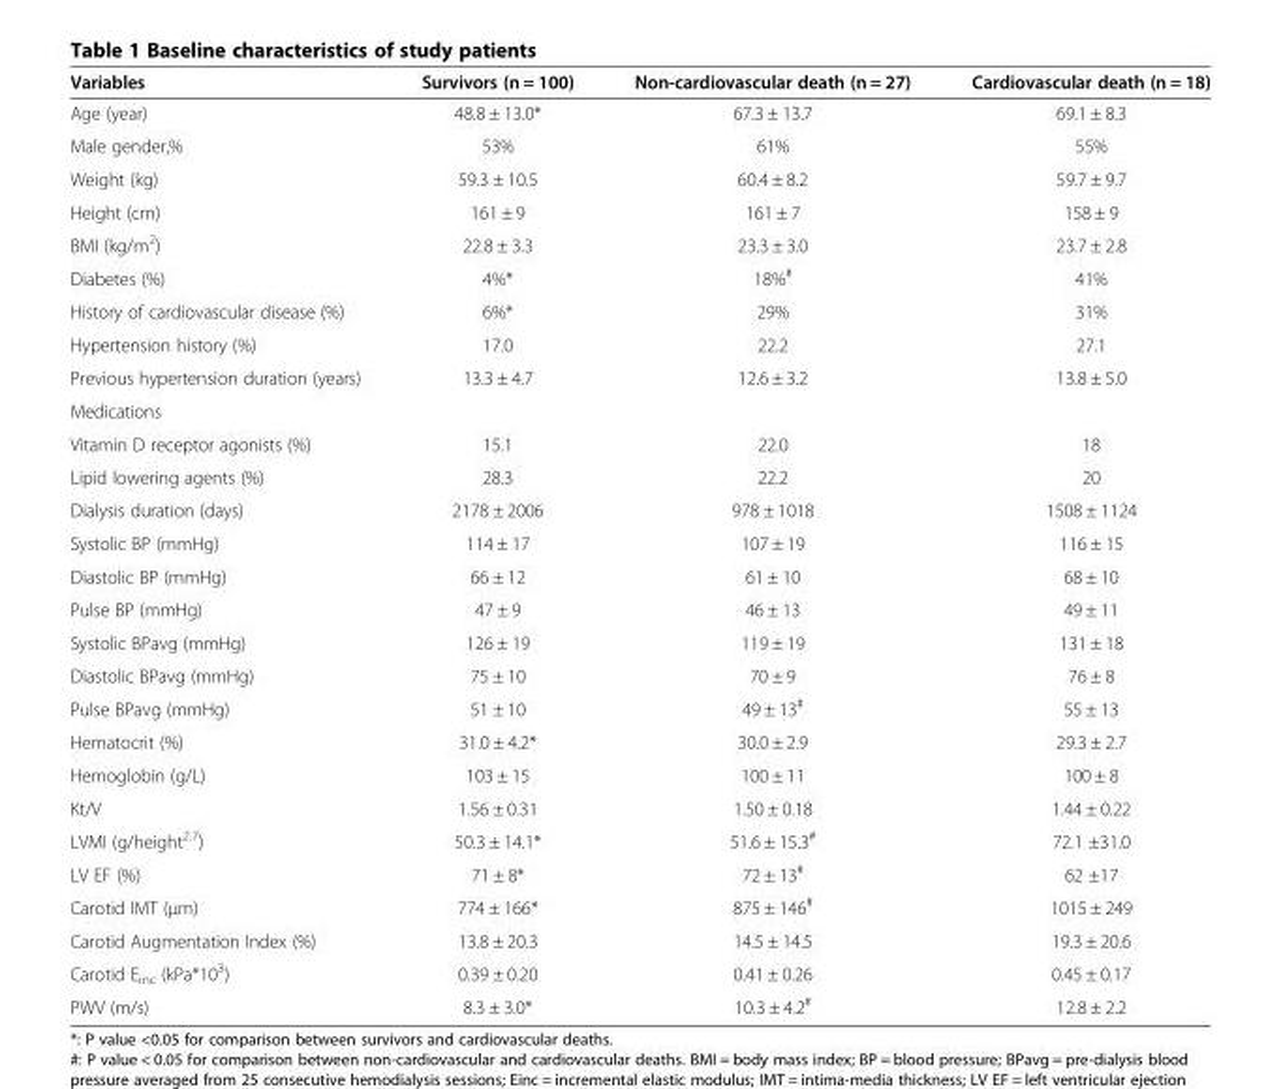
<table><thead><tr><td>Variables</td><td>Survivors (n = 100)</td><td>Non-cardiovascular death (n = 27)</td><td>Cardiovascular death (n = 18)</td></tr></thead><tbody><tr><td>Age (year)</td><td>48.8 ± 13.0*</td><td>67.3 ± 13.7</td><td>69.1 ± 8.3</td></tr><tr><td>Male gender,%</td><td>53%</td><td>61%</td><td>55%</td></tr><tr><td>Weight (kg)</td><td>59.3 ± 10.5</td><td>60.4 ± 8.2</td><td>59.7 ± 9.7</td></tr><tr><td>Height (cm)</td><td>161 ± 9</td><td>161 ± 7</td><td>158 ± 9</td></tr><tr><td>BMI (kg/m<sup>2</sup>)</td><td>22.8 ± 3.3</td><td>23.3 ± 3.0</td><td>23.7 ± 2.8</td></tr><tr><td>Diabetes (%)</td><td>4%*</td><td>18%<sup>#</sup></td><td>41%</td></tr><tr><td>History of cardiovascular disease (%)</td><td>6%*</td><td>29%</td><td>31%</td></tr><tr><td>Hypertension history (%)</td><td>17.0</td><td>22.2</td><td>27.1</td></tr><tr><td>Previous hypertension duration (years)</td><td>13.3 ± 4.7</td><td>12.6 ± 3.2</td><td>13.8 ± 5.0</td></tr><tr><td colspan="4">Medications</td></tr><tr><td>Vitamin D receptor agonists (%)</td><td>15.1</td><td>22.0</td><td>18</td></tr><tr><td>Lipid lowering agents (%)</td><td>28.3</td><td>22.2</td><td>20</td></tr><tr><td>Dialysis duration (days)</td><td>2178 ± 2006</td><td>978 ± 1018</td><td>1508 ± 1124</td></tr><tr><td>Systolic BP (mmHg)</td><td>114 ± 17</td><td>107 ± 19</td><td>116 ± 15</td></tr><tr><td>Diastolic BP (mmHg)</td><td>66 ± 12</td><td>61 ± 10</td><td>68 ± 10</td></tr><tr><td>Pulse BP (mmHg)</td><td>47 ± 9</td><td>46 ± 13</td><td>49 ± 11</td></tr><tr><td>Systolic BPavg (mmHg)</td><td>126 ± 19</td><td>119 ± 19</td><td>131 ± 18</td></tr><tr><td>Diastolic BPavg (mmHg)</td><td>75 ± 10</td><td>70 ± 9</td><td>76 ± 8</td></tr><tr><td>Pulse BPavg (mmHg)</td><td>51 ± 10</td><td>49 ± 13<sup>#</sup></td><td>55 ± 13</td></tr><tr><td>Hematocrit (%)</td><td>31.0 ± 4.2*</td><td>30.0 ± 2.9</td><td>29.3 ± 2.7</td></tr><tr><td>Hemoglobin (g/L)</td><td>103 ± 15</td><td>100 ± 11</td><td>100 ± 8</td></tr><tr><td>Kt/V</td><td>1.56 ± 0.31</td><td>1.50 ± 0.18</td><td>1.44 ± 0.22</td></tr><tr><td>LVMI (g/height<sup>2.7</sup>)</td><td>50.3 ± 14.1*</td><td>51.6 ± 15.3<sup>#</sup></td><td>72.1 ±31.0</td></tr><tr><td>LV EF (%)</td><td>71 ± 8*</td><td>72 ± 13<sup>#</sup></td><td>62 ±17</td></tr><tr><td>Carotid IMT (μm)</td><td>774 ± 166*</td><td>875 ± 146<sup>#</sup></td><td>1015 ± 249</td></tr><tr><td>Carotid Augmentation Index (%)</td><td>13.8 ± 20.3</td><td>14.5 ± 14.5</td><td>19.3 ± 20.6</td></tr><tr><td>Carotid E<sub>inc</sub> (kPa*10<sup>3</sup>)</td><td>0.39 ± 0.20</td><td>0.41 ± 0.26</td><td>0.45 ± 0.17</td></tr><tr><td>PWV (m/s)</td><td>8.3 ± 3.0*</td><td>10.3 ± 4.2<sup>#</sup></td><td>12.8 ± 2.2</td></tr></tbody></table>